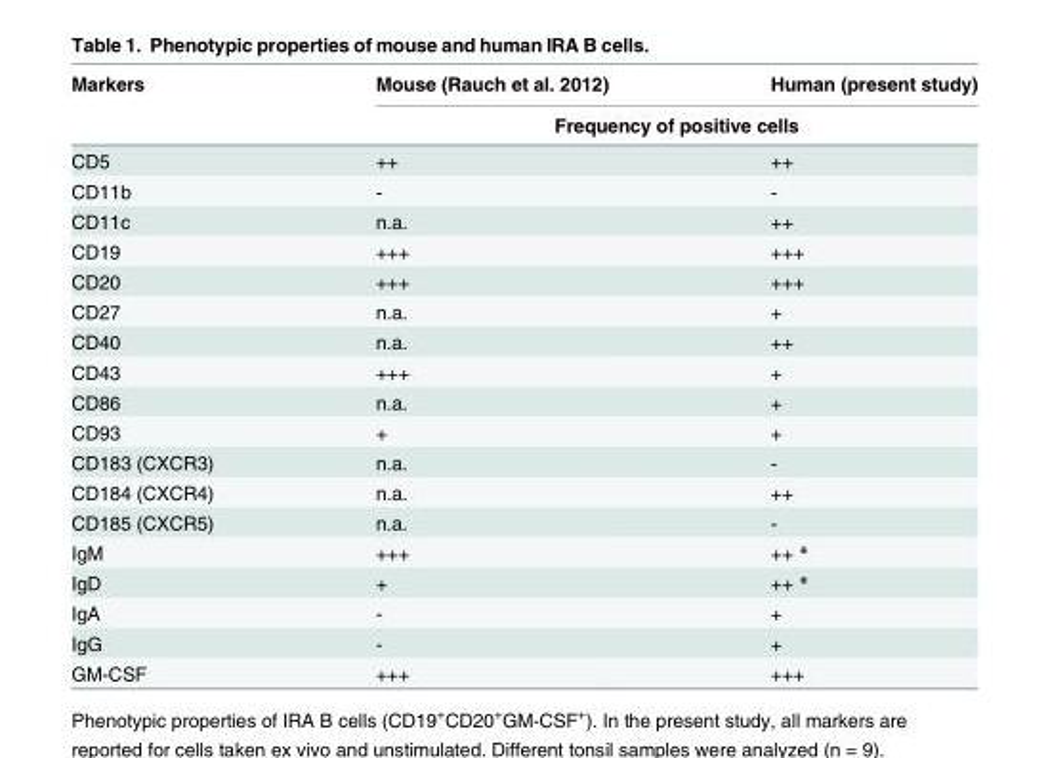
<table><thead><tr><td rowspan="2">Markers</td><td>Mouse (Rauch et al. 2012)</td><td>Human (present study)</td></tr><tr><td colspan="2">Frequency of positive cells</td></tr></thead><tbody><tr><td>CD5</td><td>++</td><td>++</td></tr><tr><td>CD11b</td><td>-</td><td>-</td></tr><tr><td>CD11c</td><td>n.a.</td><td>++</td></tr><tr><td>CD19</td><td>+++</td><td>+++</td></tr><tr><td>CD20</td><td>+++</td><td>+++</td></tr><tr><td>CD27</td><td>n.a.</td><td>+</td></tr><tr><td>CD40</td><td>n.a.</td><td>++</td></tr><tr><td>CD43</td><td>+++</td><td>+</td></tr><tr><td>CD86</td><td>n.a.</td><td>+</td></tr><tr><td>CD93</td><td>+</td><td>+</td></tr><tr><td>CD183 (CXCR3)</td><td>n.a.</td><td>-</td></tr><tr><td>CD184 (CXCR4)</td><td>n.a.</td><td>++</td></tr><tr><td>CD185 (CXCR5)</td><td>n.a.</td><td>-</td></tr><tr><td>IgM</td><td>+++</td><td>++ *</td></tr><tr><td>IgD</td><td>+</td><td>++ *</td></tr><tr><td>IgA</td><td>-</td><td>+</td></tr><tr><td>IgG</td><td>-</td><td>+</td></tr><tr><td>GM-CSF</td><td>+++</td><td>+++</td></tr></tbody></table>